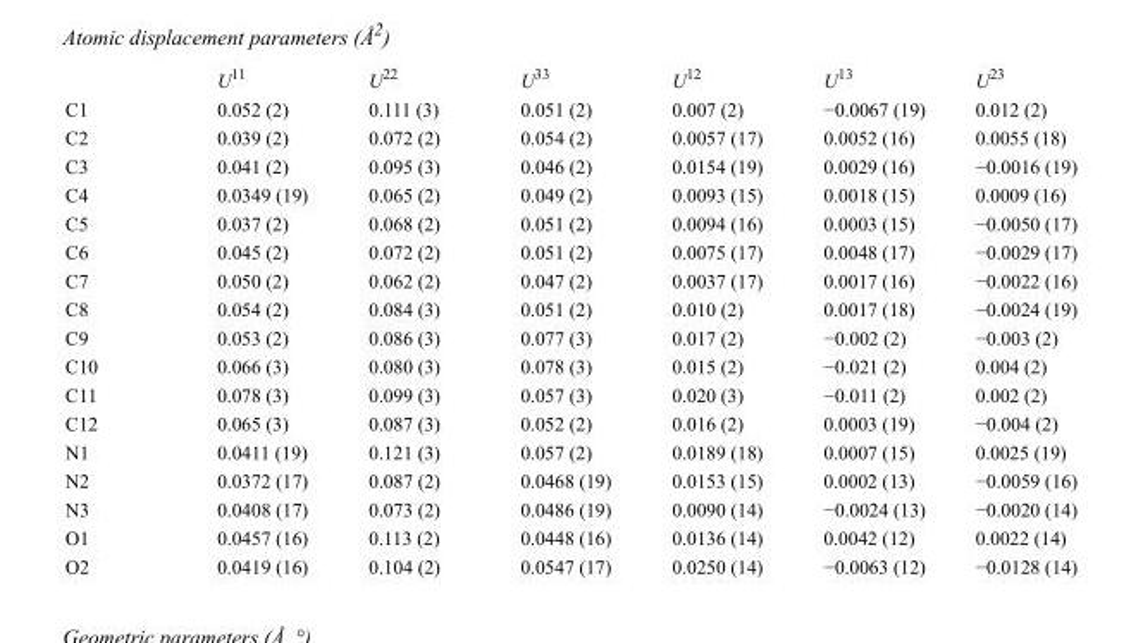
<table><thead><tr><td></td><td>U<sup>11</sup></td><td>U<sup>22</sup></td><td>U<sup>33</sup></td><td>U<sup>12</sup></td><td>U<sup>13</sup></td><td>U<sup>23</sup></td></tr></thead><tbody><tr><td>C1</td><td>0.052 (2)</td><td>0.111 (3)</td><td>0.051 (2)</td><td>0.007 (2)</td><td>−0.0067 (19)</td><td>0.012 (2)</td></tr><tr><td>C2</td><td>0.039 (2)</td><td>0.072 (2)</td><td>0.054 (2)</td><td>0.0057 (17)</td><td>0.0052 (16)</td><td>0.0055 (18)</td></tr><tr><td>C3</td><td>0.041 (2)</td><td>0.095 (3)</td><td>0.046 (2)</td><td>0.0154 (19)</td><td>0.0029 (16)</td><td>−0.0016 (19)</td></tr><tr><td>C4</td><td>0.0349 (19)</td><td>0.065 (2)</td><td>0.049 (2)</td><td>0.0093 (15)</td><td>0.0018 (15)</td><td>0.0009 (16)</td></tr><tr><td>C5</td><td>0.037 (2)</td><td>0.068 (2)</td><td>0.051 (2)</td><td>0.0094 (16)</td><td>0.0003 (15)</td><td>−0.0050 (17)</td></tr><tr><td>C6</td><td>0.045 (2)</td><td>0.072 (2)</td><td>0.051 (2)</td><td>0.0075 (17)</td><td>0.0048 (17)</td><td>−0.0029 (17)</td></tr><tr><td>C7</td><td>0.050 (2)</td><td>0.062 (2)</td><td>0.047 (2)</td><td>0.0037 (17)</td><td>0.0017 (16)</td><td>−0.0022 (16)</td></tr><tr><td>C8</td><td>0.054 (2)</td><td>0.084 (3)</td><td>0.051 (2)</td><td>0.010 (2)</td><td>0.0017 (18)</td><td>−0.0024 (19)</td></tr><tr><td>C9</td><td>0.053 (2)</td><td>0.086 (3)</td><td>0.077 (3)</td><td>0.017 (2)</td><td>−0.002 (2)</td><td>−0.003 (2)</td></tr><tr><td>C10</td><td>0.066 (3)</td><td>0.080 (3)</td><td>0.078 (3)</td><td>0.015 (2)</td><td>−0.021 (2)</td><td>0.004 (2)</td></tr><tr><td>C11</td><td>0.078 (3)</td><td>0.099 (3)</td><td>0.057 (3)</td><td>0.020 (3)</td><td>−0.011 (2)</td><td>0.002 (2)</td></tr><tr><td>C12</td><td>0.065 (3)</td><td>0.087 (3)</td><td>0.052 (2)</td><td>0.016 (2)</td><td>0.0003 (19)</td><td>−0.004 (2)</td></tr><tr><td>N1</td><td>0.0411 (19)</td><td>0.121 (3)</td><td>0.057 (2)</td><td>0.0189 (18)</td><td>0.0007 (15)</td><td>0.0025 (19)</td></tr><tr><td>N2</td><td>0.0372 (17)</td><td>0.087 (2)</td><td>0.0468 (19)</td><td>0.0153 (15)</td><td>0.0002 (13)</td><td>−0.0059 (16)</td></tr><tr><td>N3</td><td>0.0408 (17)</td><td>0.073 (2)</td><td>0.0486 (19)</td><td>0.0090 (14)</td><td>−0.0024 (13)</td><td>−0.0020 (14)</td></tr><tr><td>O1</td><td>0.0457 (16)</td><td>0.113 (2)</td><td>0.0448 (16)</td><td>0.0136 (14)</td><td>0.0042 (12)</td><td>0.0022 (14)</td></tr><tr><td>O2</td><td>0.0419 (16)</td><td>0.104 (2)</td><td>0.0547 (17)</td><td>0.0250 (14)</td><td>−0.0063 (12)</td><td>−0.0128 (14)</td></tr></tbody></table>